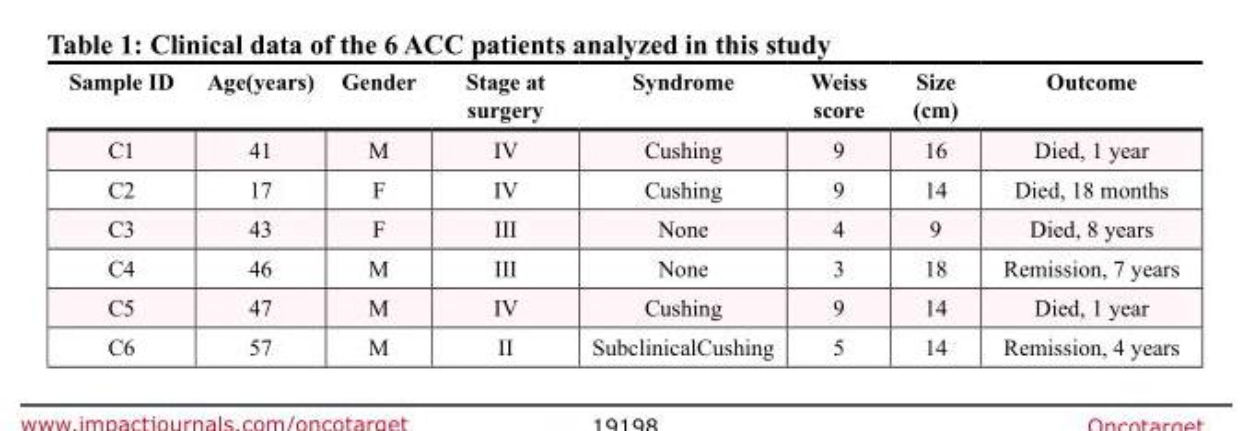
<table><thead><tr><td>Sample ID</td><td>Age(years)</td><td>Gender</td><td>Stage at surgery</td><td>Syndrome</td><td>Weiss score</td><td>Size (cm)</td><td>Outcome</td></tr></thead><tbody><tr><td>C1</td><td>41</td><td>M</td><td>IV</td><td>Cushing</td><td>9</td><td>16</td><td>Died, 1 year</td></tr><tr><td>C2</td><td>17</td><td>F</td><td>IV</td><td>Cushing</td><td>9</td><td>14</td><td>Died, 18 months</td></tr><tr><td>C3</td><td>43</td><td>F</td><td>III</td><td>None</td><td>4</td><td>9</td><td>Died, 8 years</td></tr><tr><td>C4</td><td>46</td><td>M</td><td>III</td><td>None</td><td>3</td><td>18</td><td>Remission, 7 years</td></tr><tr><td>C5</td><td>47</td><td>M</td><td>IV</td><td>Cushing</td><td>9</td><td>14</td><td>Died, 1 year</td></tr><tr><td>C6</td><td>57</td><td>M</td><td>II</td><td>SubclinicalCushing</td><td>5</td><td>14</td><td>Remission, 4 years</td></tr></tbody></table>